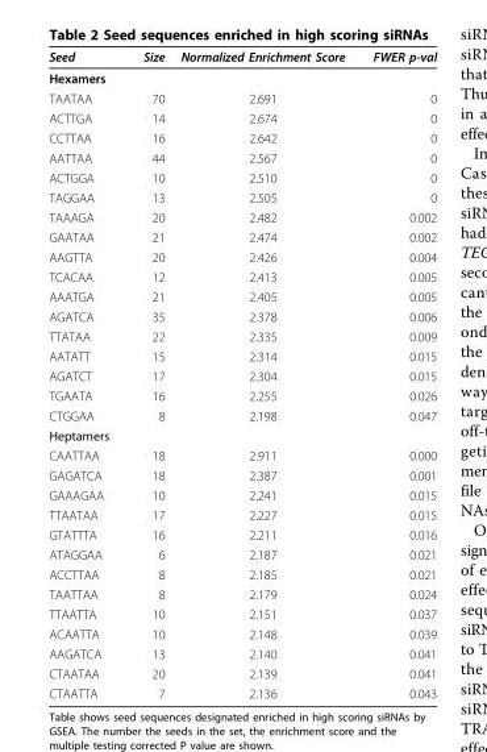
<table><thead><tr><td>Seed</td><td>Size</td><td>Normalized Enrichment Score</td><td>FWER p-val</td></tr></thead><tbody><tr><td colspan="4">Hexamers</td></tr><tr><td>TAATAA</td><td>70</td><td>2.691</td><td>0</td></tr><tr><td>ACTTGA</td><td>14</td><td>2.674</td><td>0</td></tr><tr><td>CCTTAA</td><td>16</td><td>2.642</td><td>0</td></tr><tr><td>AATTAA</td><td>44</td><td>2.567</td><td>0</td></tr><tr><td>ACTGGA</td><td>10</td><td>2.510</td><td>0</td></tr><tr><td>TAGGAA</td><td>13</td><td>2.505</td><td>0</td></tr><tr><td>TAAAGA</td><td>20</td><td>2.482</td><td>0.002</td></tr><tr><td>GAATAA</td><td>21</td><td>2.474</td><td>0.002</td></tr><tr><td>AAGTTA</td><td>20</td><td>2.426</td><td>0.004</td></tr><tr><td>TCACAA</td><td>12</td><td>2.413</td><td>0.005</td></tr><tr><td>AAATGA</td><td>21</td><td>2.405</td><td>0.005</td></tr><tr><td>AGATCA</td><td>35</td><td>2.378</td><td>0.006</td></tr><tr><td>TTATAA</td><td>22</td><td>2.335</td><td>0.009</td></tr><tr><td>AATATT</td><td>15</td><td>2.314</td><td>0.015</td></tr><tr><td>AGATCT</td><td>17</td><td>2.304</td><td>0.015</td></tr><tr><td>TGAATA</td><td>16</td><td>2.255</td><td>0.026</td></tr><tr><td>CTGGAA</td><td>8</td><td>2.198</td><td>0.047</td></tr><tr><td colspan="4">Heptamers</td></tr><tr><td>CAATTAA</td><td>18</td><td>2.911</td><td>0.000</td></tr><tr><td>GAGATCA</td><td>18</td><td>2.387</td><td>0.001</td></tr><tr><td>GAAAGAA</td><td>10</td><td>2.241</td><td>0.015</td></tr><tr><td>TTAATAA</td><td>17</td><td>2.227</td><td>0.015</td></tr><tr><td>GTATTTA</td><td>16</td><td>2.211</td><td>0.016</td></tr><tr><td>ATAGGAA</td><td>6</td><td>2.187</td><td>0.021</td></tr><tr><td>ACCTTAA</td><td>8</td><td>2.185</td><td>0.021</td></tr><tr><td>TAATTAA</td><td>8</td><td>2.179</td><td>0.024</td></tr><tr><td>TTAATTA</td><td>10</td><td>2.151</td><td>0.037</td></tr><tr><td>ACAATTA</td><td>10</td><td>2.148</td><td>0.039</td></tr><tr><td>AAGATCA</td><td>13</td><td>2.140</td><td>0.041</td></tr><tr><td>CTAATAA</td><td>20</td><td>2.139</td><td>0.041</td></tr><tr><td>CTAATTA</td><td>7</td><td>2.136</td><td>0.043</td></tr></tbody></table>